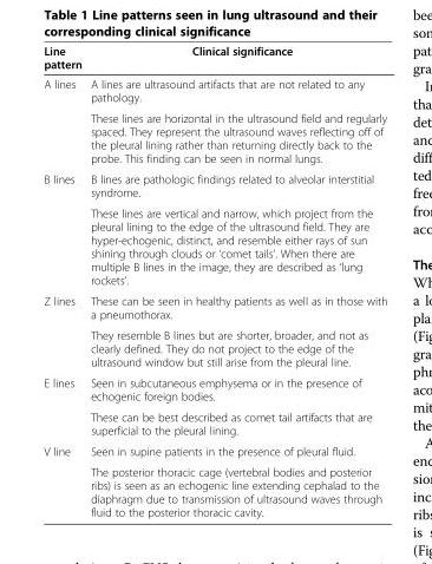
<table><thead><tr><td>Line pattern</td><td>Clinical significance</td></tr></thead><tbody><tr><td rowspan="2">A lines</td><td>A lines are ultrasound artifacts that are not related to any pathology.</td></tr><tr><td>These lines are horizontal in the ultrasound field and regularly spaced. They represent the ultrasound waves reflecting off of the pleural lining rather than returning directly back to the probe. This finding can be seen in normal lungs.</td></tr><tr><td rowspan="2">B lines</td><td>B lines are pathologic findings related to alveolar interstitial syndrome.</td></tr><tr><td>These lines are vertical and narrow, which project from the pleural lining to the edge of the ultrasound field. They are hyper-echogenic, distinct, and resemble either rays of sun shining through clouds or ‘comet tails’. When there are multiple B lines in the image, they are described as ‘lung rockets’.</td></tr><tr><td rowspan="2">Z lines</td><td>These can be seen in healthy patients as well as in those with a pneumothorax.</td></tr><tr><td>They resemble B lines but are shorter, broader, and not as clearly defined. They do not project to the edge of the ultrasound window but still arise from the pleural line.</td></tr><tr><td rowspan="2">E lines</td><td>Seen in subcutaneous emphysema or in the presence of echogenic foreign bodies.</td></tr><tr><td>These can be best described as comet tail artifacts that are superficial to the pleural lining.</td></tr><tr><td rowspan="2">V line</td><td>Seen in supine patients in the presence of pleural fluid.</td></tr><tr><td>The posterior thoracic cage (vertebral bodies and posterior ribs) is seen as an echogenic line extending cephalad to the diaphragm due to transmission of ultrasound waves through fluid to the posterior thoracic cavity.</td></tr></tbody></table>